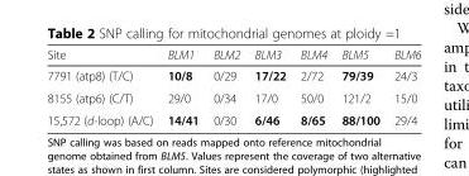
<table><thead><tr><td>Site</td><td>BLM1</td><td>BLM2</td><td>BLM3</td><td>BLM4</td><td>BLM5</td><td>BLM6</td></tr></thead><tbody><tr><td>7791 (atp8) (T/C)</td><td>10/8</td><td>0/29</td><td>17/22</td><td>2/72</td><td>79/39</td><td>24/3</td></tr><tr><td>8155 (atp6) (C/T)</td><td>29/0</td><td>0/34</td><td>17/0</td><td>50/0</td><td>121/2</td><td>15/0</td></tr><tr><td>15,572 (d-loop) (A/C)</td><td>14/41</td><td>0/30</td><td>6/46</td><td>8/65</td><td>88/100</td><td>29/4</td></tr></tbody></table>